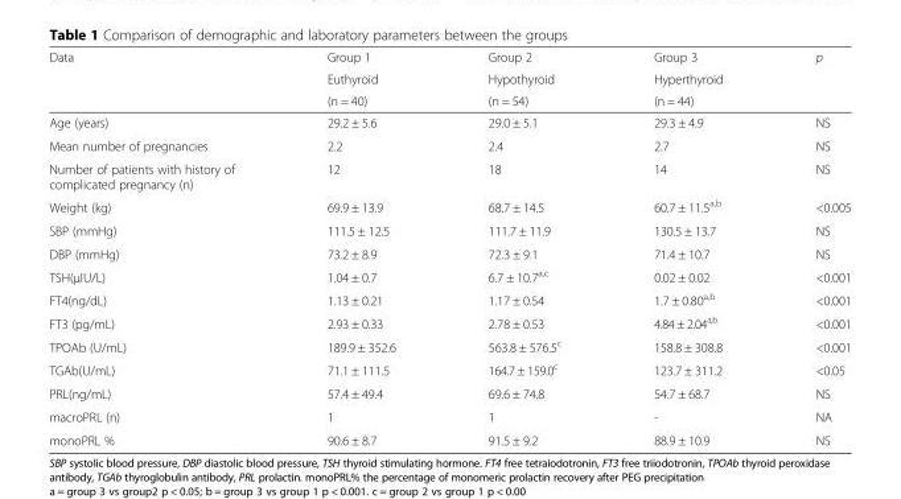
<table><thead><tr><td rowspan="3">Data</td><td rowspan="3">Group 1 Euthyroid (n = 40)</td><td rowspan="3">Group 2 Hypothyroid (n = 54)</td><td rowspan="3">Group 3 Hyperthyroid (n = 44)</td><td rowspan="3">p</td></tr><tr></tr><tr></tr></thead><tbody><tr><td>Age (years)</td><td>29.2 ± 5.6</td><td>29.0 ± 5.1</td><td>29.3 ± 4.9</td><td>NS</td></tr><tr><td>Mean number of pregnancies</td><td>2.2</td><td>2.4</td><td>2.7</td><td>NS</td></tr><tr><td>Number of patients with history of complicated pregnancy (n)</td><td>12</td><td>18</td><td>14</td><td>NS</td></tr><tr><td>Weight (kg)</td><td>69.9 ± 13.9</td><td>68.7 ± 14.5</td><td>60.7 ± 11.5<sup>a,b</sup></td><td>&lt;0.005</td></tr><tr><td>SBP (mmHg)</td><td>111.5 ± 12.5</td><td>111.7 ± 11.9</td><td>130.5 ± 13.7</td><td>NS</td></tr><tr><td>DBP (mmHg)</td><td>73.2 ± 8.9</td><td>72.3 ± 9.1</td><td>71.4 ± 10.7</td><td>NS</td></tr><tr><td>TSH(μIU/L)</td><td>1.04 ± 0.7</td><td>6.7 ± 10.7<sup>a,c</sup></td><td>0.02 ± 0.02</td><td>&lt;0.001</td></tr><tr><td>FT4(ng/dL)</td><td>1.13 ± 0.21</td><td>1.17 ± 0.54</td><td>1.7 ± 0.80<sup>a,b</sup></td><td>&lt;0.001</td></tr><tr><td>FT3 (pg/mL)</td><td>2.93 ± 0.33</td><td>2.78 ± 0.53</td><td>4.84 ± 2.04<sup>a,b</sup></td><td>&lt;0.001</td></tr><tr><td>TPOAb (U/mL)</td><td>189.9 ± 352.6</td><td>563.8 ± 576.5<sup>c</sup></td><td>158.8 ± 308.8</td><td>&lt;0.001</td></tr><tr><td>TGAb(U/mL)</td><td>71.1 ± 111.5</td><td>164.7 ± 159.0<sup>c</sup></td><td>123.7 ± 311.2</td><td>&lt;0.05</td></tr><tr><td>PRL(ng/mL)</td><td>57.4 ± 49.4</td><td>69.6 ± 74.8</td><td>54.7 ± 68.7</td><td>NS</td></tr><tr><td>macroPRL (n)</td><td>1</td><td>1</td><td>-</td><td>NA</td></tr><tr><td>monoPRL %</td><td>90.6 ± 8.7</td><td>91.5 ± 9.2</td><td>88.9 ± 10.9</td><td>NS</td></tr></tbody></table>